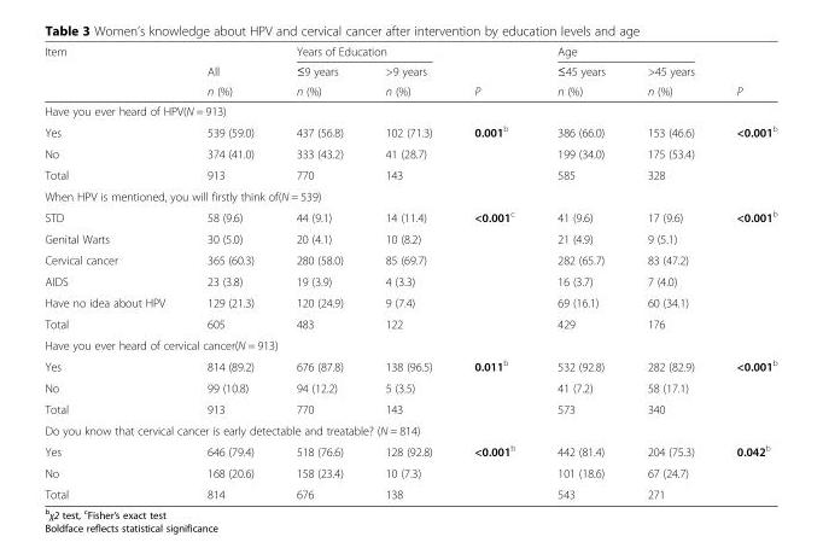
<table><thead><tr><td rowspan="3">Item</td><td rowspan="3">All n (%)</td><td colspan="2">Years of Education</td><td rowspan="3">P</td><td colspan="2">Age</td><td rowspan="3">P</td></tr><tr><td rowspan="2">≤9 years n (%)</td><td rowspan="2">&gt;9 years n (%)</td><td rowspan="2">≤45 years n (%)</td><td rowspan="2">&gt;45 years n (%)</td></tr><tr></tr></thead><tbody><tr><td colspan="8">Have you ever heard of HPV(N = 913)</td></tr><tr><td>Yes</td><td>539 (59.0)</td><td>437 (56.8)</td><td>102 (71.3)</td><td rowspan="2">0.001<sup>b</sup></td><td>386 (66.0)</td><td>153 (46.6)</td><td rowspan="2">&lt;0.001<sup>b</sup></td></tr><tr><td>No</td><td>374 (41.0)</td><td>333 (43.2)</td><td>41 (28.7)</td><td>199 (34.0)</td><td>175 (53.4)</td></tr><tr><td>Total</td><td>913</td><td>770</td><td>143</td><td></td><td>585</td><td>328</td><td></td></tr><tr><td colspan="8">When HPV is mentioned, you will firstly think of(N = 539)</td></tr><tr><td>STD</td><td>58 (9.6)</td><td>44 (9.1)</td><td>14 (11.4)</td><td rowspan="5">&lt;0.001<sup>c</sup></td><td>41 (9.6)</td><td>17 (9.6)</td><td rowspan="5">&lt;0.001<sup>b</sup></td></tr><tr><td>Genital Warts</td><td>30 (5.0)</td><td>20 (4.1)</td><td>10 (8.2)</td><td>21 (4.9)</td><td>9 (5.1)</td></tr><tr><td>Cervical cancer</td><td>365 (60.3)</td><td>280 (58.0)</td><td>85 (69.7)</td><td>282 (65.7)</td><td>83 (47.2)</td></tr><tr><td>AIDS</td><td>23 (3.8)</td><td>19 (3.9)</td><td>4 (3.3)</td><td>16 (3.7)</td><td>7 (4.0)</td></tr><tr><td>Have no idea about HPV</td><td>129 (21.3)</td><td>120 (24.9)</td><td>9 (7.4)</td><td>69 (16.1)</td><td>60 (34.1)</td></tr><tr><td>Total</td><td>605</td><td>483</td><td>122</td><td></td><td>429</td><td>176</td><td></td></tr><tr><td colspan="8">Have you ever heard of cervical cancer(N = 913)</td></tr><tr><td>Yes</td><td>814 (89.2)</td><td>676 (87.8)</td><td>138 (96.5)</td><td rowspan="3">0.011<sup>b</sup></td><td>532 (92.8)</td><td>282 (82.9)</td><td rowspan="3">&lt;0.001<sup>b</sup></td></tr><tr><td>No</td><td>99 (10.8)</td><td>94 (12.2)</td><td>5 (3.5)</td><td>41 (7.2)</td><td>58 (17.1)</td></tr><tr><td>Total</td><td>913</td><td>770</td><td>143</td><td>573</td><td>340</td></tr><tr><td colspan="8">Do you know that cervical cancer is early detectable and treatable? (N = 814)</td></tr><tr><td>Yes</td><td>646 (79.4)</td><td>518 (76.6)</td><td>128 (92.8)</td><td rowspan="3">&lt;0.001<sup>b</sup></td><td>442 (81.4)</td><td>204 (75.3)</td><td rowspan="3">0.042<sup>b</sup></td></tr><tr><td>No</td><td>168 (20.6)</td><td>158 (23.4)</td><td>10 (7.3)</td><td>101 (18.6)</td><td>67 (24.7)</td></tr><tr><td>Total</td><td>814</td><td>676</td><td>138</td><td>543</td><td>271</td></tr></tbody></table>